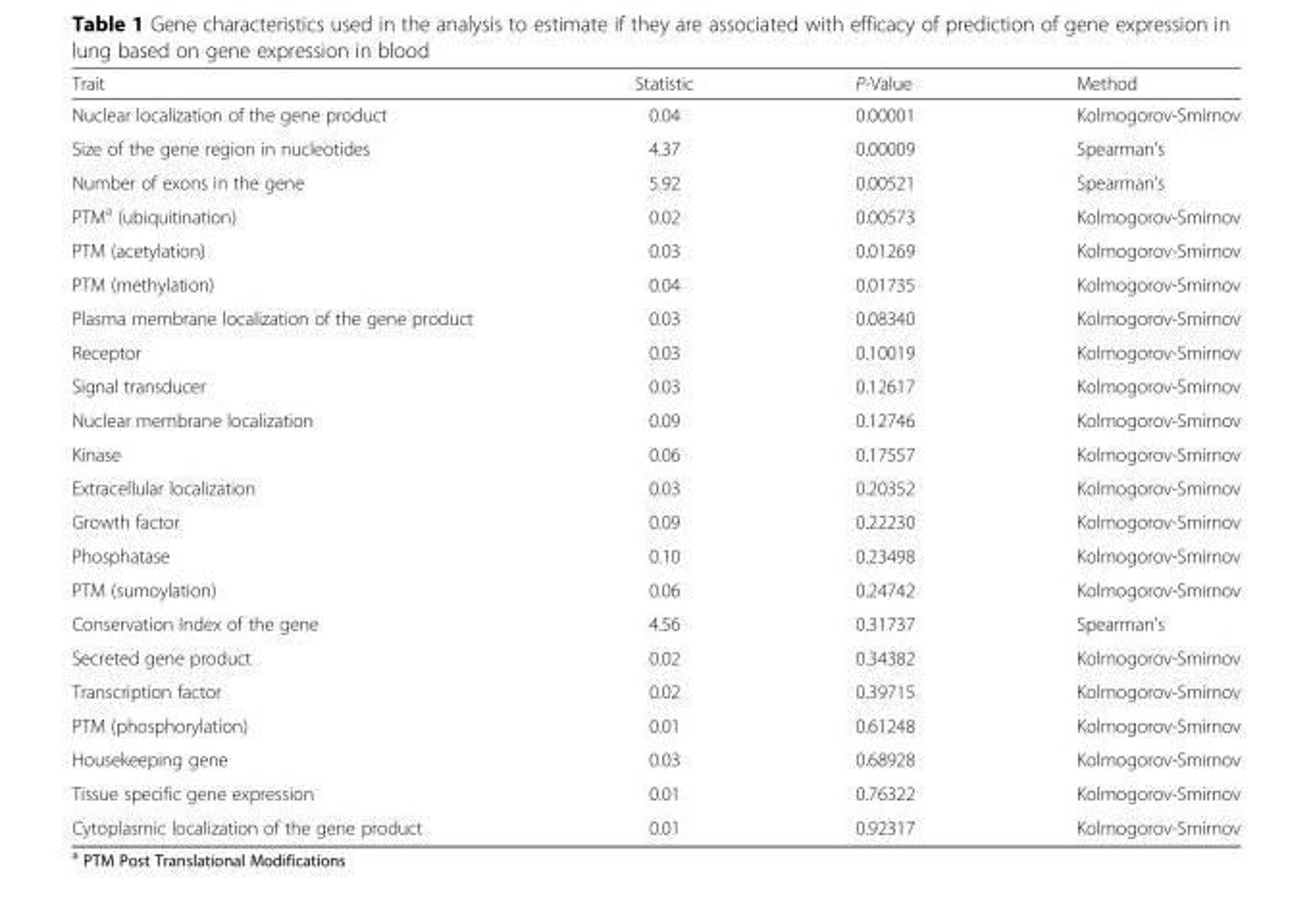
<table><thead><tr><td>Trait</td><td>Statistic</td><td>P-Value</td><td>Method</td></tr></thead><tbody><tr><td>Nuclear localization of the gene product</td><td>0.04</td><td>0.00001</td><td>Kolmogorov-Smirnov</td></tr><tr><td>Size of the gene region in nucleotides</td><td>4.37</td><td>0.00009</td><td>Spearman’s</td></tr><tr><td>Number of exons in the gene</td><td>5.92</td><td>0.00521</td><td>Spearman’s</td></tr><tr><td>PTM<sup>a</sup> (ubiquitination)</td><td>0.02</td><td>0.00573</td><td>Kolmogorov-Smirnov</td></tr><tr><td>PTM (acetylation)</td><td>0.03</td><td>0.01269</td><td>Kolmogorov-Smirnov</td></tr><tr><td>PTM (methylation)</td><td>0.04</td><td>0.01735</td><td>Kolmogorov-Smirnov</td></tr><tr><td>Plasma membrane localization of the gene product</td><td>0.03</td><td>0.08340</td><td>Kolmogorov-Smirnov</td></tr><tr><td>Receptor</td><td>0.03</td><td>0.10019</td><td>Kolmogorov-Smirnov</td></tr><tr><td>Signal transducer</td><td>0.03</td><td>0.12617</td><td>Kolmogorov-Smirnov</td></tr><tr><td>Nuclear membrane localization</td><td>0.09</td><td>0.12746</td><td>Kolmogorov-Smirnov</td></tr><tr><td>Kinase</td><td>0.06</td><td>0.17557</td><td>Kolmogorov-Smirnov</td></tr><tr><td>Extracellular localization</td><td>0.03</td><td>0.20352</td><td>Kolmogorov-Smirnov</td></tr><tr><td>Growth factor</td><td>0.09</td><td>0.22230</td><td>Kolmogorov-Smirnov</td></tr><tr><td>Phosphatase</td><td>0.10</td><td>0.23498</td><td>Kolmogorov-Smirnov</td></tr><tr><td>PTM (sumoylation)</td><td>0.06</td><td>0.24742</td><td>Kolmogorov-Smirnov</td></tr><tr><td>Conservation Index of the gene</td><td>4.56</td><td>0.31737</td><td>Spearman’s</td></tr><tr><td>Secreted gene product</td><td>0.02</td><td>0.34382</td><td>Kolmogorov-Smirnov</td></tr><tr><td>Transcription factor</td><td>0.02</td><td>0.39715</td><td>Kolmogorov-Smirnov</td></tr><tr><td>PTM (phosphorylation)</td><td>0.01</td><td>0.61248</td><td>Kolmogorov-Smirnov</td></tr><tr><td>Housekeeping gene</td><td>0.03</td><td>0.68928</td><td>Kolmogorov-Smirnov</td></tr><tr><td>Tissue specific gene expression</td><td>0.01</td><td>0.76322</td><td>Kolmogorov-Smirnov</td></tr><tr><td>Cytoplasmic localization of the gene product</td><td>0.01</td><td>0.92317</td><td>Kolmogorov-Smirnov</td></tr></tbody></table>